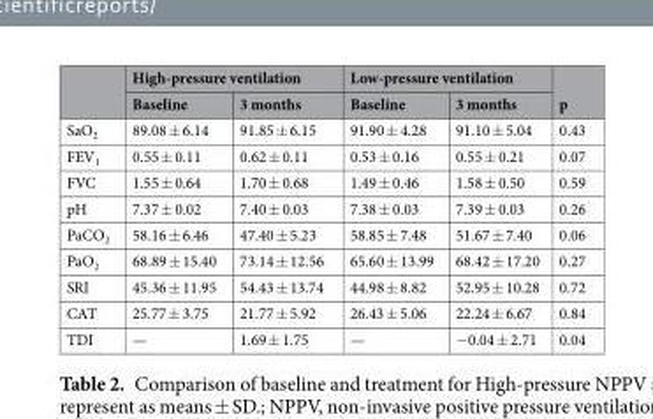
<table><thead><tr><td rowspan="2"></td><td colspan="2">High-pressure ventilation</td><td colspan="2">Low-pressure ventilation</td><td rowspan="2">p</td></tr><tr><td>Baseline</td><td>3 months</td><td>Baseline</td><td>3 months</td></tr></thead><tbody><tr><td>SaO<sub>2</sub></td><td>89.08 ± 6.14</td><td>91.85 ± 6.15</td><td>91.90 ± 4.28</td><td>91.10 ± 5.04</td><td>0.43</td></tr><tr><td>FEV<sub>1</sub></td><td>0.55 ± 0.11</td><td>0.62 ± 0.11</td><td>0.53 ± 0.16</td><td>0.55 ± 0.21</td><td>0.07</td></tr><tr><td>FVC</td><td>1.55 ± 0.64</td><td>1.70 ± 0.68</td><td>1.49 ± 0.46</td><td>1.58 ± 0.50</td><td>0.59</td></tr><tr><td>pH</td><td>7.37 ± 0.02</td><td>7.40 ± 0.03</td><td>7.38 ± 0.03</td><td>7.39 ± 0.03</td><td>0.26</td></tr><tr><td>PaCO<sub>2</sub></td><td>58.16 ± 6.46</td><td>47.40 ± 5.23</td><td>58.85 ± 7.48</td><td>51.67 ± 7.40</td><td>0.06</td></tr><tr><td>PaO<sub>2</sub></td><td>68.89 ± 15.40</td><td>73.14 ± 12.56</td><td>65.60 ± 13.99</td><td>68.42 ± 17.20</td><td>0.27</td></tr><tr><td>SRI</td><td>45.36 ± 11.95</td><td>54.43 ± 13.74</td><td>44.98 ± 8.82</td><td>52.95 ± 10.28</td><td>0.72</td></tr><tr><td>CAT</td><td>25.77 ± 3.75</td><td>21.77 ± 5.92</td><td>26.43 ± 5.06</td><td>22.24 ± 6.67</td><td>0.84</td></tr><tr><td>TDI</td><td>—</td><td>1.69 ± 1.75</td><td>—</td><td>−0.04 ± 2.71</td><td>0.04</td></tr></tbody></table>